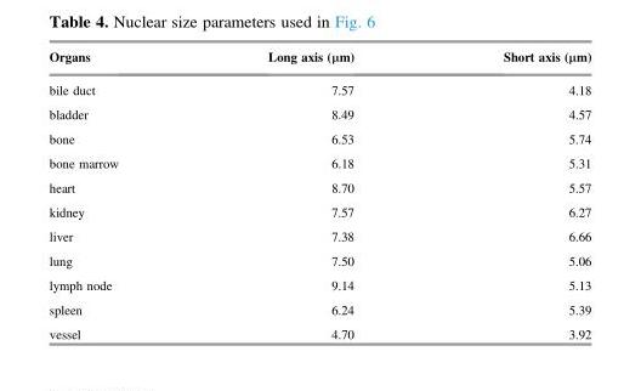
<table><thead><tr><td>Organs</td><td>Long axis (μm)</td><td>Short axis (μm)</td></tr></thead><tbody><tr><td>bile duct</td><td>7.57</td><td>4.18</td></tr><tr><td>bladder</td><td>8.49</td><td>4.57</td></tr><tr><td>bone</td><td>6.53</td><td>5.74</td></tr><tr><td>bone marrow</td><td>6.18</td><td>5.31</td></tr><tr><td>heart</td><td>8.70</td><td>5.57</td></tr><tr><td>kidney</td><td>7.57</td><td>6.27</td></tr><tr><td>liver</td><td>7.38</td><td>6.66</td></tr><tr><td>lung</td><td>7.50</td><td>5.06</td></tr><tr><td>lymph node</td><td>9.14</td><td>5.13</td></tr><tr><td>spleen</td><td>6.24</td><td>5.39</td></tr><tr><td>vessel</td><td>4.70</td><td>3.92</td></tr></tbody></table>